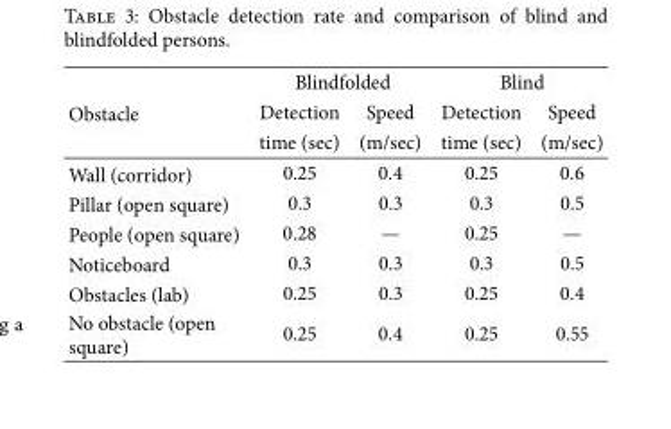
<table><thead><tr><td rowspan="3">Obstacle</td><td colspan="2">Blindfolded</td><td colspan="2">Blind</td></tr><tr><td rowspan="2">Detection time (sec)</td><td rowspan="2">Speed (m/sec)</td><td rowspan="2">Detection time (sec)</td><td rowspan="2">Speed (m/sec)</td></tr><tr></tr></thead><tbody><tr><td>Wall (corridor)</td><td>0.25</td><td>0.4</td><td>0.25</td><td>0.6</td></tr><tr><td>Pillar (open square)</td><td>0.3</td><td>0.3</td><td>0.3</td><td>0.5</td></tr><tr><td>People (open square)</td><td>0.28</td><td>—</td><td>0.25</td><td>—</td></tr><tr><td>Noticeboard</td><td>0.3</td><td>0.3</td><td>0.3</td><td>0.5</td></tr><tr><td>Obstacles (lab)</td><td>0.25</td><td>0.3</td><td>0.25</td><td>0.4</td></tr><tr><td>No obstacle (open square)</td><td>0.25</td><td>0.4</td><td>0.25</td><td>0.55</td></tr></tbody></table>